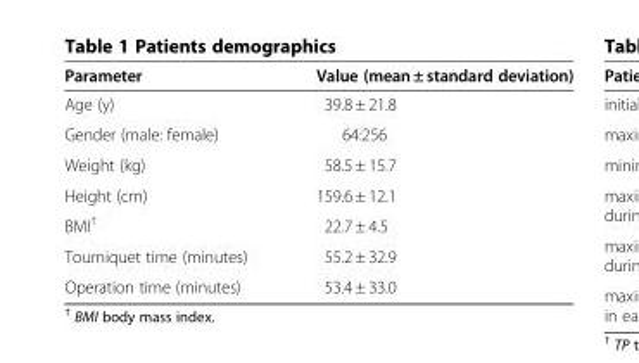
<table><thead><tr><td>Parameter</td><td>Value (mean ± standard deviation)</td></tr></thead><tbody><tr><td>Age (y)</td><td>39.8 ± 21.8</td></tr><tr><td>Gender (male: female)</td><td>64:256</td></tr><tr><td>Weight (kg)</td><td>58.5 ± 15.7</td></tr><tr><td>Height (cm)</td><td>159.6 ± 12.1</td></tr><tr><td>BMI<sup>†</sup></td><td>22.7 ± 4.5</td></tr><tr><td>Tourniquet time (minutes)</td><td>55.2 ± 32.9</td></tr><tr><td>Operation time (minutes)</td><td>53.4 ± 33.0</td></tr></tbody></table>